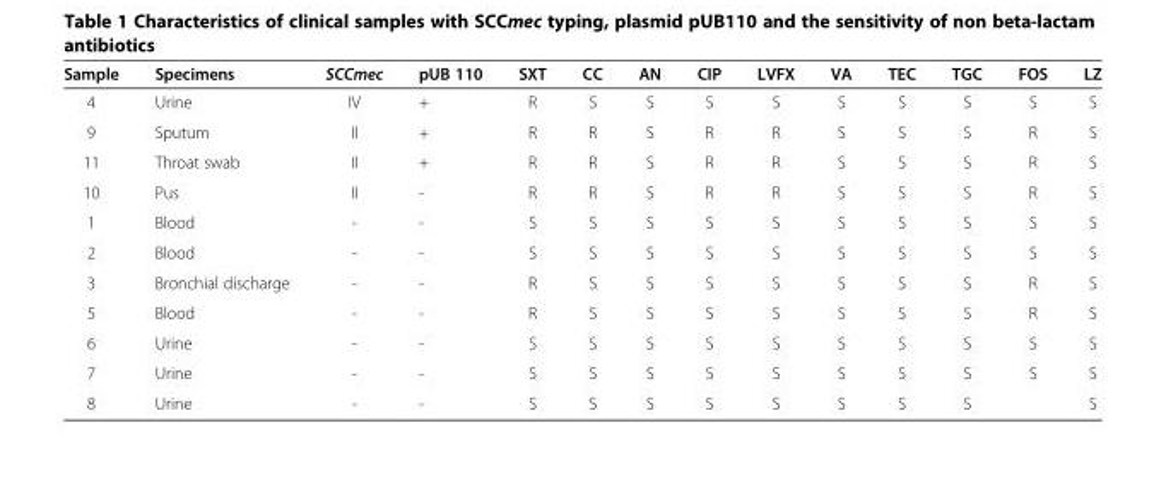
<table><thead><tr><td>Sample</td><td>Specimens</td><td>SCCmec</td><td>pUB 110</td><td>SXT</td><td>CC</td><td>AN</td><td>CIP</td><td>LVFX</td><td>VA</td><td>TEC</td><td>TGC</td><td>FOS</td><td>LZ</td></tr></thead><tbody><tr><td>4</td><td>Urine</td><td>IV</td><td>+</td><td>R</td><td>S</td><td>S</td><td>S</td><td>S</td><td>S</td><td>S</td><td>S</td><td>S</td><td>S</td></tr><tr><td>9</td><td>Sputum</td><td>II</td><td>+</td><td>R</td><td>R</td><td>S</td><td>R</td><td>R</td><td>S</td><td>S</td><td>S</td><td>R</td><td>S</td></tr><tr><td>11</td><td>Throat swab</td><td>II</td><td>+</td><td>R</td><td>R</td><td>S</td><td>R</td><td>R</td><td>S</td><td>S</td><td>S</td><td>R</td><td>S</td></tr><tr><td>10</td><td>Pus</td><td>II</td><td>-</td><td>R</td><td>R</td><td>S</td><td>R</td><td>R</td><td>S</td><td>S</td><td>S</td><td>R</td><td>S</td></tr><tr><td>1</td><td>Blood</td><td>-</td><td>-</td><td>S</td><td>S</td><td>S</td><td>S</td><td>S</td><td>S</td><td>S</td><td>S</td><td>S</td><td>S</td></tr><tr><td>2</td><td>Blood</td><td>-</td><td>-</td><td>S</td><td>S</td><td>S</td><td>S</td><td>S</td><td>S</td><td>S</td><td>S</td><td>S</td><td>S</td></tr><tr><td>3</td><td>Bronchial discharge</td><td>-</td><td>-</td><td>R</td><td>S</td><td>S</td><td>S</td><td>S</td><td>S</td><td>S</td><td>S</td><td>R</td><td>S</td></tr><tr><td>5</td><td>Blood</td><td>-</td><td>-</td><td>R</td><td>S</td><td>S</td><td>S</td><td>S</td><td>S</td><td>S</td><td>S</td><td>R</td><td>S</td></tr><tr><td>6</td><td>Urine</td><td>-</td><td>-</td><td>S</td><td>S</td><td>S</td><td>S</td><td>S</td><td>S</td><td>S</td><td>S</td><td>S</td><td>S</td></tr><tr><td>7</td><td>Urine</td><td>-</td><td>-</td><td>S</td><td>S</td><td>S</td><td>S</td><td>S</td><td>S</td><td>S</td><td>S</td><td>S</td><td>S</td></tr><tr><td>8</td><td>Urine</td><td>-</td><td>-</td><td>S</td><td>S</td><td>S</td><td>S</td><td>S</td><td>S</td><td>S</td><td>S</td><td></td><td>S</td></tr></tbody></table>